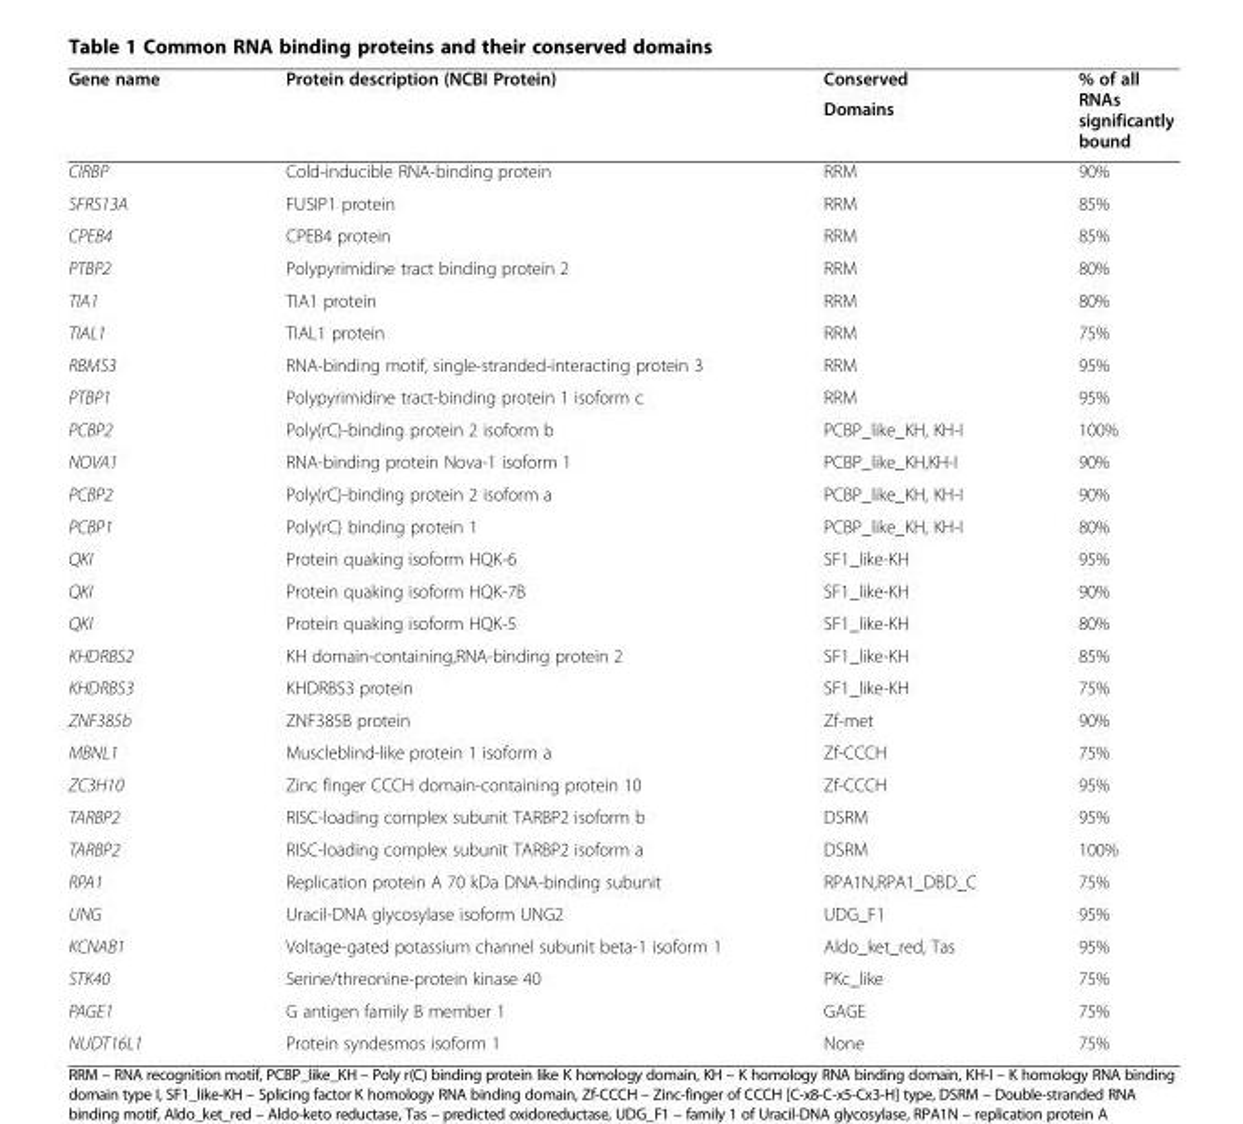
<table><thead><tr><td rowspan="2">Gene name</td><td rowspan="2">Protein description (NCBI Protein)</td><td rowspan="2">Conserved Domains</td><td rowspan="2">% of all RNAs significantly bound</td></tr><tr></tr></thead><tbody><tr><td>CIRBP</td><td>Cold-inducible RNA-binding protein</td><td>RRM</td><td>90%</td></tr><tr><td>SFRS13A</td><td>FUSIP1 protein</td><td>RRM</td><td>85%</td></tr><tr><td>CPEB4</td><td>CPEB4 protein</td><td>RRM</td><td>85%</td></tr><tr><td>PTBP2</td><td>Polypyrimidine tract binding protein 2</td><td>RRM</td><td>80%</td></tr><tr><td>TIA1</td><td>TIA1 protein</td><td>RRM</td><td>80%</td></tr><tr><td>TIAL1</td><td>TIAL1 protein</td><td>RRM</td><td>75%</td></tr><tr><td>RBMS3</td><td>RNA-binding motif, single-stranded-interacting protein 3</td><td>RRM</td><td>95%</td></tr><tr><td>PTBP1</td><td>Polypyrimidine tract-binding protein 1 isoform c</td><td>RRM</td><td>95%</td></tr><tr><td>PCBP2</td><td>Poly(rC)-binding protein 2 isoform b</td><td>PCBP_like_KH, KH-I</td><td>100%</td></tr><tr><td>NOVA1</td><td>RNA-binding protein Nova-1 isoform 1</td><td>PCBP_like_KH,KH-I</td><td>90%</td></tr><tr><td>PCBP2</td><td>Poly(rC)-binding protein 2 isoform a</td><td>PCBP_like_KH, KH-I</td><td>90%</td></tr><tr><td>PCBP1</td><td>Poly(rC) binding protein 1</td><td>PCBP_like_KH, KH-I</td><td>80%</td></tr><tr><td>QKI</td><td>Protein quaking isoform HQK-6</td><td>SF1_like-KH</td><td>95%</td></tr><tr><td>QKI</td><td>Protein quaking isoform HQK-7B</td><td>SF1_like-KH</td><td>90%</td></tr><tr><td>QKI</td><td>Protein quaking isoform HQK-5</td><td>SF1_like-KH</td><td>80%</td></tr><tr><td>KHDRBS2</td><td>KH domain-containing,RNA-binding protein 2</td><td>SF1_like-KH</td><td>85%</td></tr><tr><td>KHDRBS3</td><td>KHDRBS3 protein</td><td>SF1_like-KH</td><td>75%</td></tr><tr><td>ZNF385b</td><td>ZNF385B protein</td><td>Zf-met</td><td>90%</td></tr><tr><td>MBNL1</td><td>Muscleblind-like protein 1 isoform a</td><td>Zf-CCCH</td><td>75%</td></tr><tr><td>ZC3H10</td><td>Zinc finger CCCH domain-containing protein 10</td><td>Zf-CCCH</td><td>95%</td></tr><tr><td>TARBP2</td><td>RISC-loading complex subunit TARBP2 isoform b</td><td>DSRM</td><td>95%</td></tr><tr><td>TARBP2</td><td>RISC-loading complex subunit TARBP2 isoform a</td><td>DSRM</td><td>100%</td></tr><tr><td>RPA1</td><td>Replication protein A 70 kDa DNA-binding subunit</td><td>RPA1N,RPA1_DBD_C</td><td>75%</td></tr><tr><td>UNG</td><td>Uracil-DNA glycosylase isoform UNG2</td><td>UDG_F1</td><td>95%</td></tr><tr><td>KCNAB1</td><td>Voltage-gated potassium channel subunit beta-1 isoform 1</td><td>Aldo_ket_red, Tas</td><td>95%</td></tr><tr><td>STK40</td><td>Serine/threonine-protein kinase 40</td><td>PKc_like</td><td>75%</td></tr><tr><td>PAGE1</td><td>G antigen family B member 1</td><td>GAGE</td><td>75%</td></tr><tr><td>NUDT16L1</td><td>Protein syndesmos isoform 1</td><td>None</td><td>75%</td></tr></tbody></table>